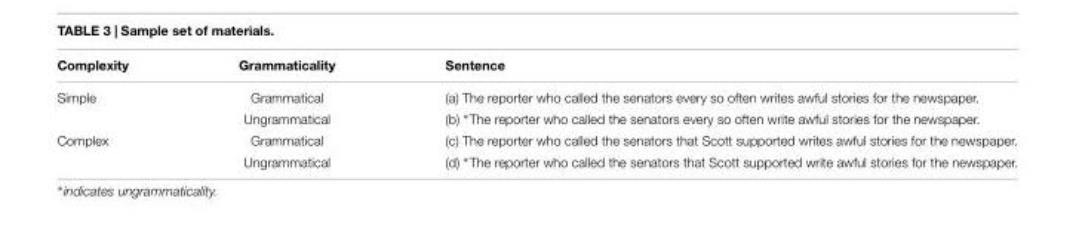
<table><thead><tr><td>Complexity</td><td>Grammaticality</td><td>Sentence</td></tr></thead><tbody><tr><td rowspan="2">Simple</td><td>Grammatical</td><td>(a) The reporter who called the senators every so often writes awful stories for the newspaper.</td></tr><tr><td>Ungrammatical</td><td>(b) ∗The reporter who called the senators every so often write awful stories for the newspaper.</td></tr><tr><td rowspan="2">Complex</td><td>Grammatical</td><td>(c) The reporter who called the senators that Scott supported writes awful stories for the newspaper.</td></tr><tr><td>Ungrammatical</td><td>(d) ∗The reporter who called the senators that Scott supported write awful stories for the newspaper.</td></tr></tbody></table>